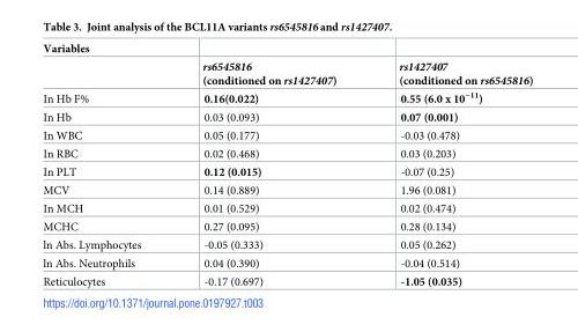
<table><thead><tr><td rowspan="2">Variables</td><td rowspan="2">rs6545816 (conditioned on rs1427407)</td><td rowspan="2">rs1427407 (conditioned on rs6545816)</td></tr><tr></tr></thead><tbody><tr><td>In Hb F%</td><td>0.16(0.022)</td><td>0.55 (6.0 x 10<sup>−11</sup>)</td></tr><tr><td>In Hb</td><td>0.03 (0.093)</td><td>0.07 (0.001)</td></tr><tr><td>In WBC</td><td>0.05 (0.177)</td><td>-0.03 (0.478)</td></tr><tr><td>In RBC</td><td>0.02 (0.468)</td><td>0.03 (0.203)</td></tr><tr><td>In PLT</td><td>0.12 (0.015)</td><td>-0.07 (0.25)</td></tr><tr><td>MCV</td><td>0.14 (0.889)</td><td>1.96 (0.081)</td></tr><tr><td>In MCH</td><td>0.01 (0.529)</td><td>0.02 (0.474)</td></tr><tr><td>MCHC</td><td>0.27 (0.095)</td><td>0.28 (0.134)</td></tr><tr><td>ln Abs. Lymphocytes</td><td>-0.05 (0.333)</td><td>0.05 (0.262)</td></tr><tr><td>ln Abs. Neutrophils</td><td>0.04 (0.390)</td><td>-0.04 (0.514)</td></tr><tr><td>Reticulocytes</td><td>-0.17 (0.697)</td><td>-1.05 (0.035)</td></tr></tbody></table>